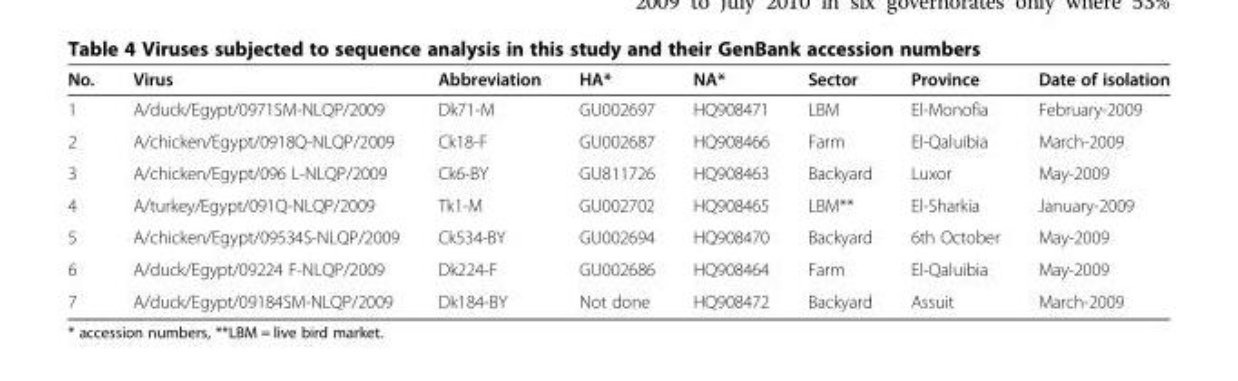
<table><thead><tr><td>No.</td><td>Virus</td><td>Abbreviation</td><td>HA*</td><td>NA*</td><td>Sector</td><td>Province</td><td>Date of isolation</td></tr></thead><tbody><tr><td>1</td><td>A/duck/Egypt/0971SM-NLQP/2009</td><td>Dk71-M</td><td>GU002697</td><td>HQ908471</td><td>LBM</td><td>El-Monofia</td><td>February-2009</td></tr><tr><td>2</td><td>A/chicken/Egypt/0918Q-NLQP/2009</td><td>Ck18-F</td><td>GU002687</td><td>HQ908466</td><td>Farm</td><td>El-Qaluibia</td><td>March-2009</td></tr><tr><td>3</td><td>A/chicken/Egypt/096 L-NLQP/2009</td><td>Ck6-BY</td><td>GU811726</td><td>HQ908463</td><td>Backyard</td><td>Luxor</td><td>May-2009</td></tr><tr><td>4</td><td>A/turkey/Egypt/091Q-NLQP/2009</td><td>Tk1-M</td><td>GU002702</td><td>HQ908465</td><td>LBM**</td><td>El-Sharkia</td><td>January-2009</td></tr><tr><td>5</td><td>A/chicken/Egypt/09534S-NLQP/2009</td><td>Ck534-BY</td><td>GU002694</td><td>HQ908470</td><td>Backyard</td><td>6th October</td><td>May-2009</td></tr><tr><td>6</td><td>A/duck/Egypt/09224 F-NLQP/2009</td><td>Dk224-F</td><td>GU002686</td><td>HQ908464</td><td>Farm</td><td>El-Qaluibia</td><td>May-2009</td></tr><tr><td>7</td><td>A/duck/Egypt/09184SM-NLQP/2009</td><td>Dk184-BY</td><td>Not done</td><td>HQ908472</td><td>Backyard</td><td>Assuit</td><td>March-2009</td></tr></tbody></table>